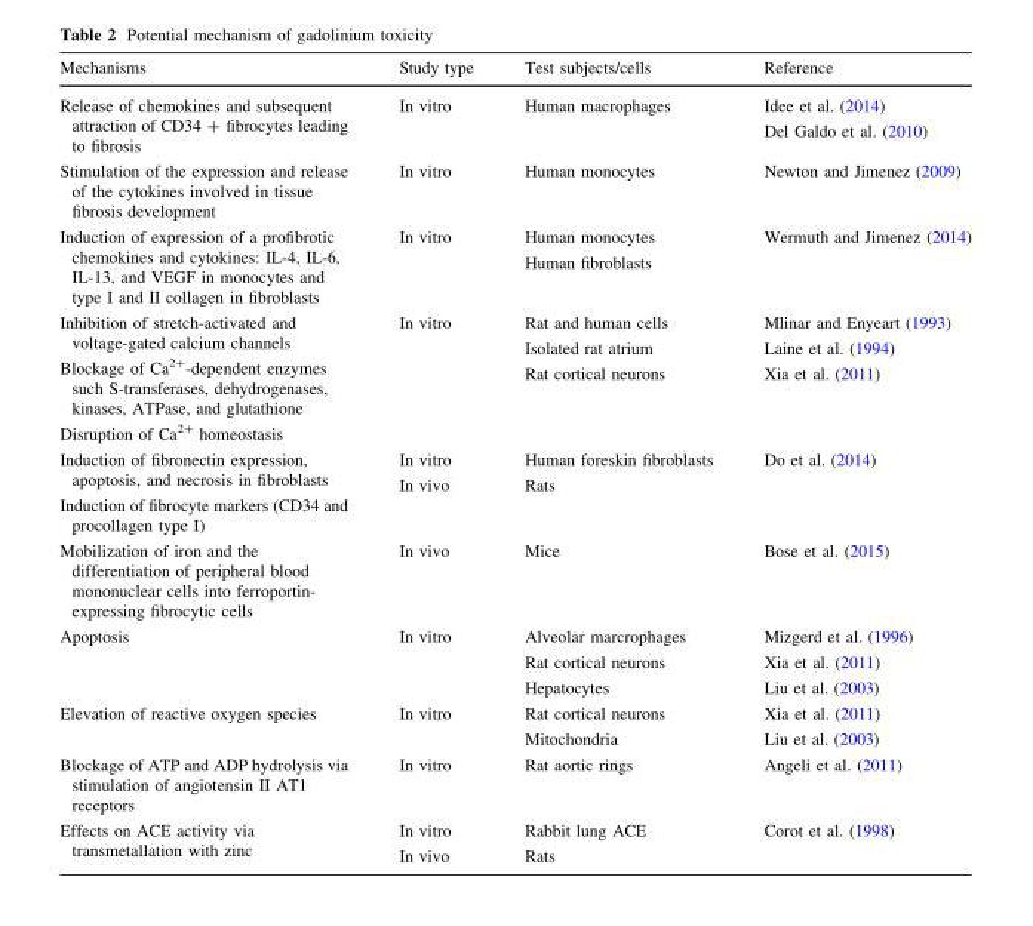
<table><thead><tr><td>Mechanisms</td><td>Study type</td><td>Test subjects/cells</td><td>Reference</td></tr></thead><tbody><tr><td>Release of chemokines and subsequent attraction of CD34 + fibrocytes leading to fibrosis</td><td>In vitro</td><td>Human macrophages</td><td>Idee et al. (2014) Del Galdo et al. (2010)</td></tr><tr><td>Stimulation of the expression and release of the cytokines involved in tissue fibrosis development</td><td>In vitro</td><td>Human monocytes</td><td>Newton and Jimenez (2009)</td></tr><tr><td>Induction of expression of a profibrotic chemokines and cytokines: IL-4, IL-6, IL-13, and VEGF in monocytes and type I and II collagen in fibroblasts</td><td>In vitro</td><td>Human monocytes Human fibroblasts</td><td>Wermuth and Jimenez (2014)</td></tr><tr><td>Inhibition of stretch-activated and voltage-gated calcium channels Blockage of Ca<sup>2+</sup>-dependent enzymes such S-transferases, dehydrogenases, kinases, ATPase, and glutathione Disruption of Ca<sup>2+</sup> homeostasis</td><td>In vitro</td><td>Rat and human cells Isolated rat atrium Rat cortical neurons</td><td>Mlinar and Enyeart (1993) Laine et al. (1994) Xia et al. (2011)</td></tr><tr><td>Induction of fibronectin expression, apoptosis, and necrosis in fibroblasts Induction of fibrocyte markers (CD34 and procollagen type I)</td><td>In vitro In vivo</td><td>Human foreskin fibroblasts Rats</td><td>Do et al. (2014)</td></tr><tr><td>Mobilization of iron and the differentiation of peripheral blood mononuclear cells into ferroportin- expressing fibrocytic cells</td><td>In vivo</td><td>Mice</td><td>Bose et al. (2015)</td></tr><tr><td>Apoptosis</td><td>In vitro</td><td>Alveolar marcrophages Rat cortical neurons Hepatocytes</td><td>Mizgerd et al. (1996) Xia et al. (2011) Liu et al. (2003)</td></tr><tr><td>Elevation of reactive oxygen species</td><td>In vitro</td><td>Rat cortical neurons Mitochondria</td><td>Xia et al. (2011) Liu et al. (2003)</td></tr><tr><td>Blockage of ATP and ADP hydrolysis via stimulation of angiotensin II AT1 receptors</td><td>In vitro</td><td>Rat aortic rings</td><td>Angeli et al. (2011)</td></tr><tr><td>Effects on ACE activity via transmetallation with zinc</td><td>In vitro In vivo</td><td>Rabbit lung ACE Rats</td><td>Corot et al. (1998)</td></tr></tbody></table>